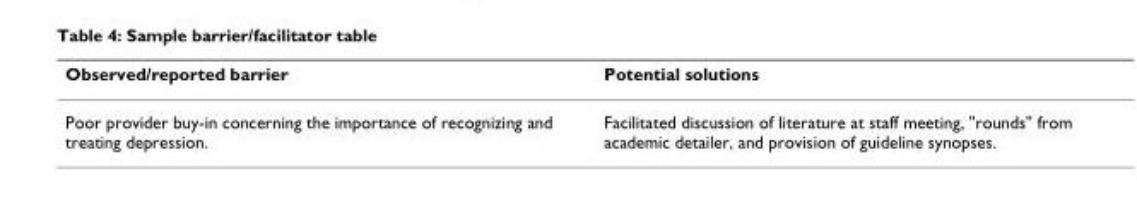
<table><thead><tr><td>Observed/reported barrier</td><td>Potential solutions</td></tr></thead><tbody><tr><td>Poor provider buy-in concerning the importance of recognizing and treating depression.</td><td>Facilitated discussion of literature at staff meeting, &quot;rounds&quot; from academic detailer, and provision of guideline synopses.</td></tr></tbody></table>